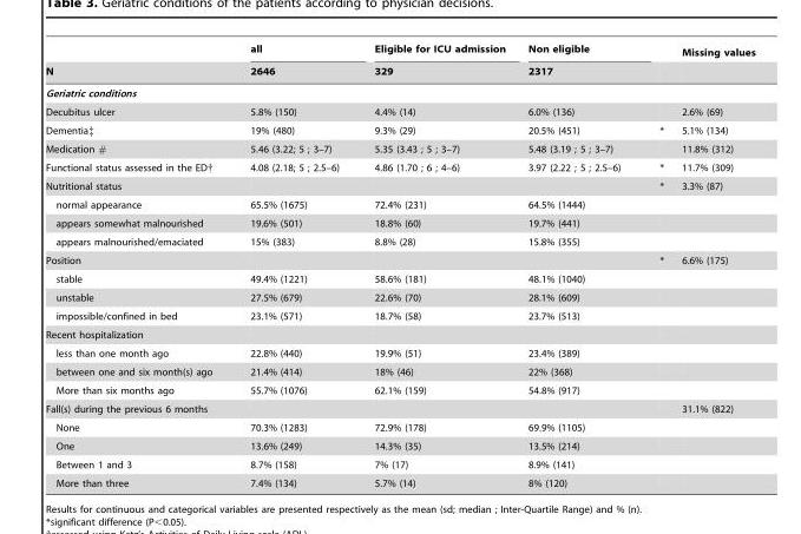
<table><thead><tr><td rowspan="2">N</td><td rowspan="2">all 2646</td><td rowspan="2">Eligible for ICU admission 329</td><td rowspan="2">Non eligible 2317</td><td rowspan="2"></td><td rowspan="2">Missing values</td></tr><tr></tr></thead><tbody><tr><td colspan="6">Geriatric conditions</td></tr><tr><td>Decubitus ulcer</td><td>5.8% (150)</td><td>4.4% (14)</td><td>6.0% (136)</td><td></td><td>2.6% (69)</td></tr><tr><td>Dementia‡</td><td>19% (480)</td><td>9.3% (29)</td><td>20.5% (451)</td><td>*</td><td>5.1% (134)</td></tr><tr><td>Medication #</td><td>5.46 (3.22; 5 ; 3–7)</td><td>5.35 (3.43 ; 5 ; 3–7)</td><td>5.48 (3.19 ; 5 ; 3–7)</td><td></td><td>11.8% (312)</td></tr><tr><td>Functional status assessed in the ED†</td><td>4.08 (2.18; 5 ; 2.5–6)</td><td>4.86 (1.70 ; 6 ; 4–6)</td><td>3.97 (2.22 ; 5 ; 2.5–6)</td><td>*</td><td>11.7% (309)</td></tr><tr><td>Nutritional status</td><td></td><td></td><td></td><td>*</td><td>3.3% (87)</td></tr><tr><td>normal appearance</td><td>65.5% (1675)</td><td>72.4% (231)</td><td>64.5% (1444)</td><td></td><td></td></tr><tr><td>appears somewhat malnourished</td><td>19.6% (501)</td><td>18.8% (60)</td><td>19.7% (441)</td><td></td><td></td></tr><tr><td>appears malnourished/emaciated</td><td>15% (383)</td><td>8.8% (28)</td><td>15.8% (355)</td><td></td><td></td></tr><tr><td>Position</td><td></td><td></td><td></td><td>*</td><td>6.6% (175)</td></tr><tr><td>stable</td><td>49.4% (1221)</td><td>58.6% (181)</td><td>48.1% (1040)</td><td></td><td></td></tr><tr><td>unstable</td><td>27.5% (679)</td><td>22.6% (70)</td><td>28.1% (609)</td><td></td><td></td></tr><tr><td>impossible/confined in bed</td><td>23.1% (571)</td><td>18.7% (58)</td><td>23.7% (513)</td><td></td><td></td></tr><tr><td colspan="6">Recent hospitalization</td></tr><tr><td>less than one month ago</td><td>22.8% (440)</td><td>19.9% (51)</td><td>23.4% (389)</td><td></td><td></td></tr><tr><td>between one and six month(s) ago</td><td>21.4% (414)</td><td>18% (46)</td><td>22% (368)</td><td></td><td></td></tr><tr><td>More than six months ago</td><td>55.7% (1076)</td><td>62.1% (159)</td><td>54.8% (917)</td><td></td><td></td></tr><tr><td>Fall(s) during the previous 6 months</td><td></td><td></td><td></td><td></td><td>31.1% (822)</td></tr><tr><td>None</td><td>70.3% (1283)</td><td>72.9% (178)</td><td>69.9% (1105)</td><td></td><td></td></tr><tr><td>One</td><td>13.6% (249)</td><td>14.3% (35)</td><td>13.5% (214)</td><td></td><td></td></tr><tr><td>Between 1 and 3</td><td>8.7% (158)</td><td>7% (17)</td><td>8.9% (141)</td><td></td><td></td></tr><tr><td>More than three</td><td>7.4% (134)</td><td>5.7% (14)</td><td>8% (120)</td><td></td><td></td></tr></tbody></table>